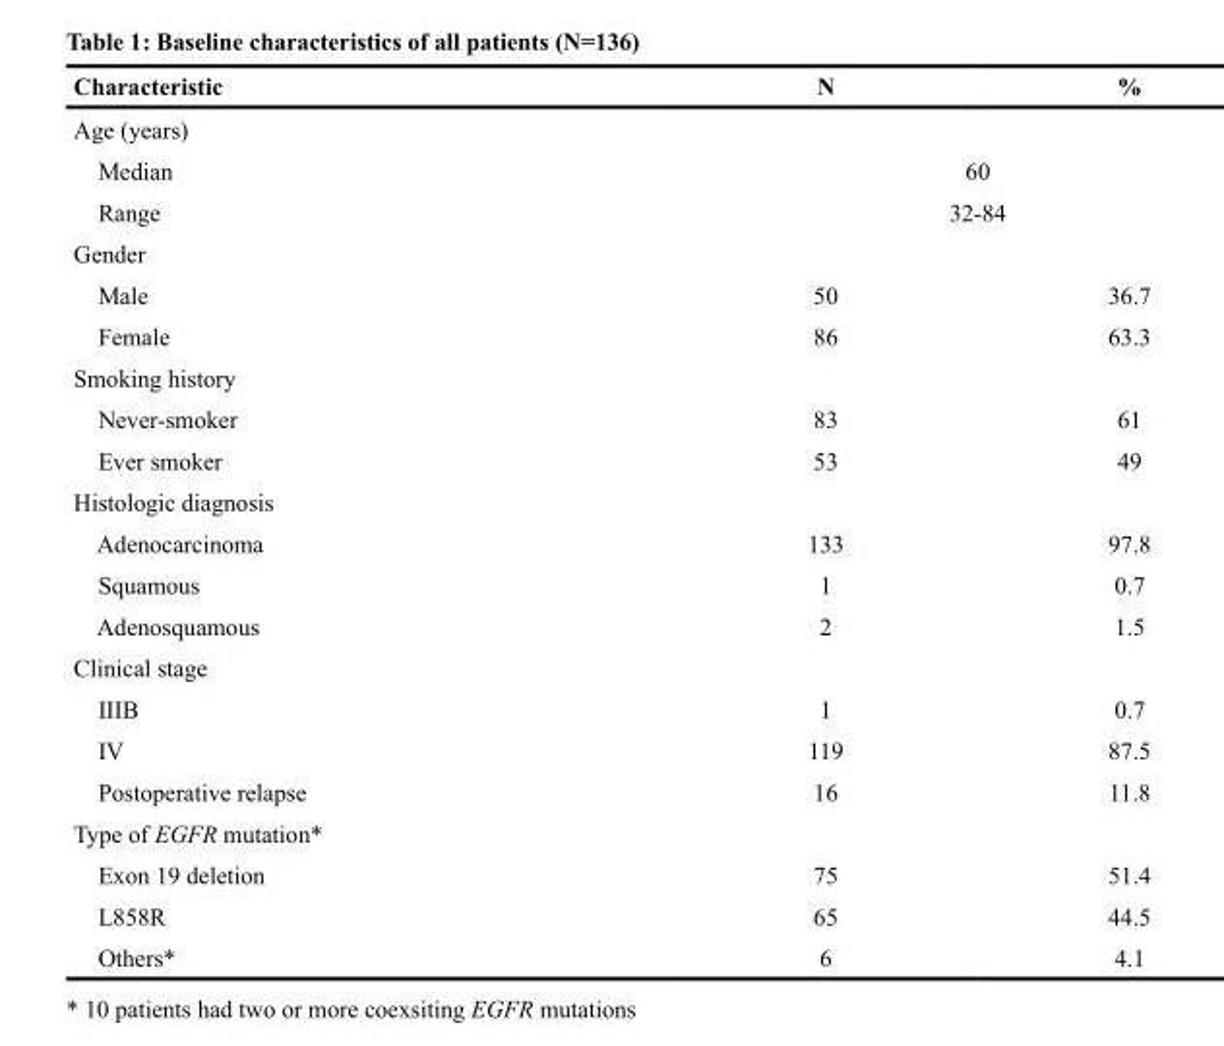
<table><thead><tr><td>Characteristic</td><td>N</td><td>%</td></tr></thead><tbody><tr><td colspan="3">Age (years)</td></tr><tr><td>Median</td><td colspan="2">60</td></tr><tr><td>Range</td><td colspan="2">32-84</td></tr><tr><td colspan="3">Gender</td></tr><tr><td>Male</td><td>50</td><td>36.7</td></tr><tr><td>Female</td><td>86</td><td>63.3</td></tr><tr><td colspan="3">Smoking history</td></tr><tr><td>Never-smoker</td><td>83</td><td>61</td></tr><tr><td>Ever smoker</td><td>53</td><td>49</td></tr><tr><td colspan="3">Histologic diagnosis</td></tr><tr><td>Adenocarcinoma</td><td>133</td><td>97.8</td></tr><tr><td>Squamous</td><td>1</td><td>0.7</td></tr><tr><td>Adenosquamous</td><td>2</td><td>1.5</td></tr><tr><td colspan="3">Clinical stage</td></tr><tr><td>IIIB</td><td>1</td><td>0.7</td></tr><tr><td>IV</td><td>119</td><td>87.5</td></tr><tr><td>Postoperative relapse</td><td>16</td><td>11.8</td></tr><tr><td colspan="3">Type of EGFR mutation*</td></tr><tr><td>Exon 19 deletion</td><td>75</td><td>51.4</td></tr><tr><td>L858R</td><td>65</td><td>44.5</td></tr><tr><td>Others*</td><td>6</td><td>4.1</td></tr></tbody></table>